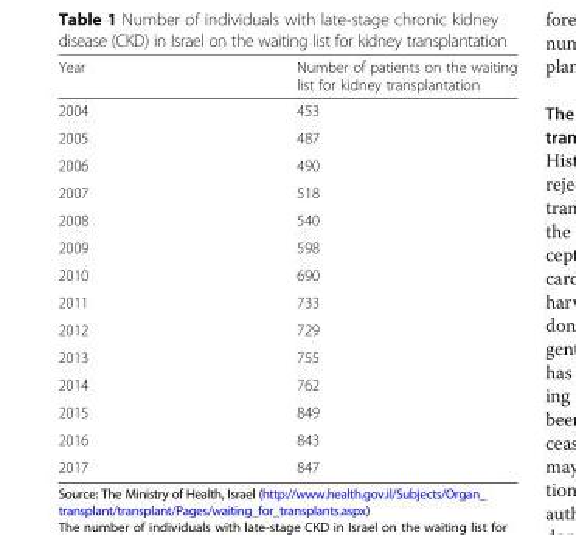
<table><thead><tr><td>Year</td><td>Number of patients on the waiting list for kidney transplantation</td></tr></thead><tbody><tr><td>2004</td><td>453</td></tr><tr><td>2005</td><td>487</td></tr><tr><td>2006</td><td>490</td></tr><tr><td>2007</td><td>518</td></tr><tr><td>2008</td><td>540</td></tr><tr><td>2009</td><td>598</td></tr><tr><td>2010</td><td>690</td></tr><tr><td>2011</td><td>733</td></tr><tr><td>2012</td><td>729</td></tr><tr><td>2013</td><td>755</td></tr><tr><td>2014</td><td>762</td></tr><tr><td>2015</td><td>849</td></tr><tr><td>2016</td><td>843</td></tr><tr><td>2017</td><td>847</td></tr></tbody></table>